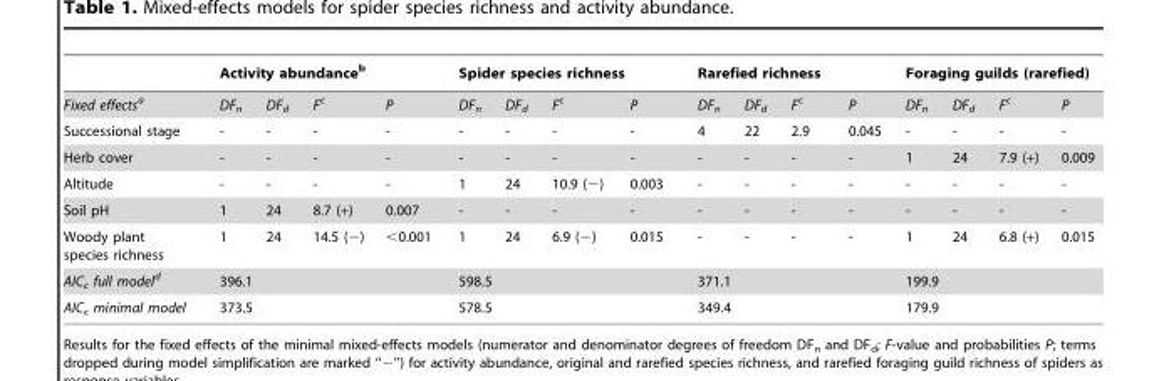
<table><thead><tr><td rowspan="2">Fixed effectsa</td><td colspan="4">Activity abundance<sup>b</sup></td><td colspan="4">Spider species richness</td><td colspan="4">Rarefied richness</td><td colspan="4">Foraging guilds (rarefied)</td></tr><tr><td>DF<sub>n</sub></td><td>DF<sub>d</sub></td><td>Fc</td><td>P</td><td>DF<sub>n</sub></td><td>DF<sub>d</sub></td><td>Fc</td><td>P</td><td>DF<sub>n</sub></td><td>DF<sub>d</sub></td><td>Fc</td><td>P</td><td>DF<sub>n</sub></td><td>DF<sub>d</sub></td><td>Fc</td><td>P</td></tr></thead><tbody><tr><td>Successional stage</td><td>-</td><td>-</td><td>-</td><td>-</td><td>-</td><td>-</td><td>-</td><td>-</td><td>4</td><td>22</td><td>2.9</td><td>0.045</td><td>-</td><td>-</td><td>-</td><td>-</td></tr><tr><td>Herb cover</td><td>-</td><td>-</td><td>-</td><td>-</td><td>-</td><td>-</td><td>-</td><td>-</td><td>-</td><td>-</td><td>-</td><td>-</td><td>1</td><td>24</td><td>7.9 (+)</td><td>0.009</td></tr><tr><td>Altitude</td><td>-</td><td>-</td><td>-</td><td>-</td><td>1</td><td>24</td><td>10.9 (−)</td><td>0.003</td><td>-</td><td>-</td><td>-</td><td>-</td><td>-</td><td>-</td><td>-</td><td>-</td></tr><tr><td>Soil pH</td><td>1</td><td>24</td><td>8.7 (+)</td><td>0.007</td><td>-</td><td>-</td><td>-</td><td>-</td><td>-</td><td>-</td><td>-</td><td>-</td><td>-</td><td>-</td><td>-</td><td>-</td></tr><tr><td>Woody plant species richness</td><td>1</td><td>24</td><td>14.5 (−)</td><td>&lt;0.001</td><td>1</td><td>24</td><td>6.9 (−)</td><td>0.015</td><td>-</td><td>-</td><td>-</td><td>-</td><td>1</td><td>24</td><td>6.8 (+)</td><td>0.015</td></tr><tr><td>AIC<sub>c</sub> full modeld</td><td colspan="4">396.1</td><td colspan="4">598.5</td><td colspan="4">371.1</td><td colspan="4">199.9</td></tr><tr><td>AIC<sub>c</sub> minimal model</td><td colspan="4">373.5</td><td colspan="4">578.5</td><td colspan="4">349.4</td><td colspan="4">179.9</td></tr></tbody></table>